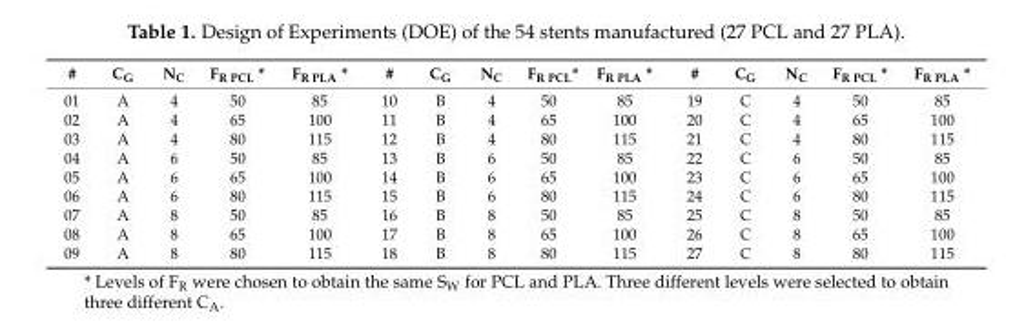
<table><thead><tr><td>#</td><td>C<sub>G</sub></td><td>N<sub>C</sub></td><td>F<sub>R PCL</sub> *</td><td>F<sub>R PLA</sub> *</td><td>#</td><td>C<sub>G</sub></td><td>N<sub>C</sub></td><td>F<sub>R PCL</sub>*</td><td>F<sub>R PLA</sub> *</td><td>#</td><td>C<sub>G</sub></td><td>N<sub>C</sub></td><td>F<sub>R PCL</sub> *</td><td>F<sub>R PLA</sub> *</td></tr></thead><tbody><tr><td>01</td><td>A</td><td>4</td><td>50</td><td>85</td><td>10</td><td>B</td><td>4</td><td>50</td><td>85</td><td>19</td><td>C</td><td>4</td><td>50</td><td>85</td></tr><tr><td>02</td><td>A</td><td>4</td><td>65</td><td>100</td><td>11</td><td>B</td><td>4</td><td>65</td><td>100</td><td>20</td><td>C</td><td>4</td><td>65</td><td>100</td></tr><tr><td>03</td><td>A</td><td>4</td><td>80</td><td>115</td><td>12</td><td>B</td><td>4</td><td>80</td><td>115</td><td>21</td><td>C</td><td>4</td><td>80</td><td>115</td></tr><tr><td>04</td><td>A</td><td>6</td><td>50</td><td>85</td><td>13</td><td>B</td><td>6</td><td>50</td><td>85</td><td>22</td><td>C</td><td>6</td><td>50</td><td>85</td></tr><tr><td>05</td><td>A</td><td>6</td><td>65</td><td>100</td><td>14</td><td>B</td><td>6</td><td>65</td><td>100</td><td>23</td><td>C</td><td>6</td><td>65</td><td>100</td></tr><tr><td>06</td><td>A</td><td>6</td><td>80</td><td>115</td><td>15</td><td>B</td><td>6</td><td>80</td><td>115</td><td>24</td><td>C</td><td>6</td><td>80</td><td>115</td></tr><tr><td>07</td><td>A</td><td>8</td><td>50</td><td>85</td><td>16</td><td>B</td><td>8</td><td>50</td><td>85</td><td>25</td><td>C</td><td>8</td><td>50</td><td>85</td></tr><tr><td>08</td><td>A</td><td>8</td><td>65</td><td>100</td><td>17</td><td>B</td><td>8</td><td>65</td><td>100</td><td>26</td><td>C</td><td>8</td><td>65</td><td>100</td></tr><tr><td>09</td><td>A</td><td>8</td><td>80</td><td>115</td><td>18</td><td>B</td><td>8</td><td>80</td><td>115</td><td>27</td><td>C</td><td>8</td><td>80</td><td>115</td></tr></tbody></table>